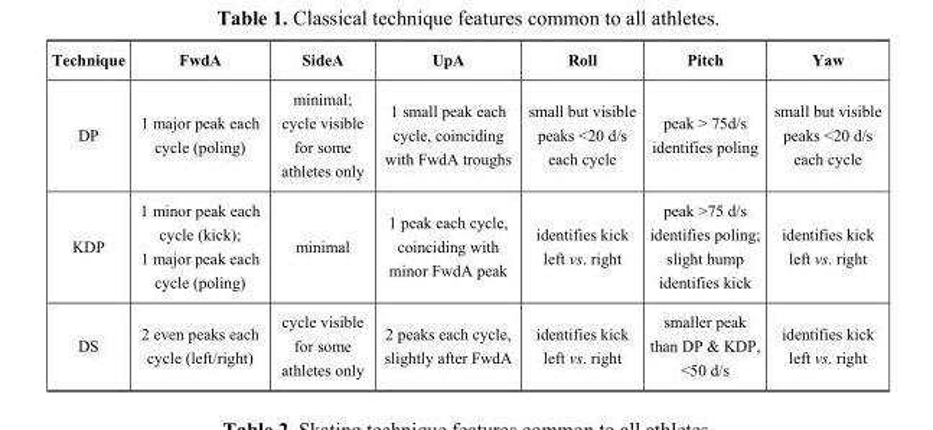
<table><thead><tr><td>Technique</td><td>FwdA</td><td>SideA</td><td>UpA</td><td>Roll</td><td>Pitch</td><td>Yaw</td></tr></thead><tbody><tr><td>DP</td><td>1 major peak each cycle (poling)</td><td>minimal; cycle visible for some athletes only</td><td>1 small peak each cycle, coinciding with FwdA troughs</td><td>small but visible peaks &lt;20 d/s each cycle</td><td>peak &gt; 75d/s identifies poling</td><td>small but visible peaks &lt;20 d/s each cycle</td></tr><tr><td>KDP</td><td>1 minor peak each cycle (kick); 1 major peak each cycle (poling)</td><td>minimal</td><td>1 peak each cycle, coinciding with minor FwdA peak</td><td>identifies kick left vs. right</td><td>peak &gt;75 d/s identifies poling; slight hump identifies kick</td><td>identifies kick left vs. right</td></tr><tr><td>DS</td><td>2 even peaks each cycle (left/right)</td><td>cycle visible for some athletes only</td><td>2 peaks each cycle, slightly after FwdA</td><td>identifies kick left vs. right</td><td>smaller peak than DP &amp; KDP, &lt;50 d/s</td><td>identifies kick left vs. right</td></tr></tbody></table>